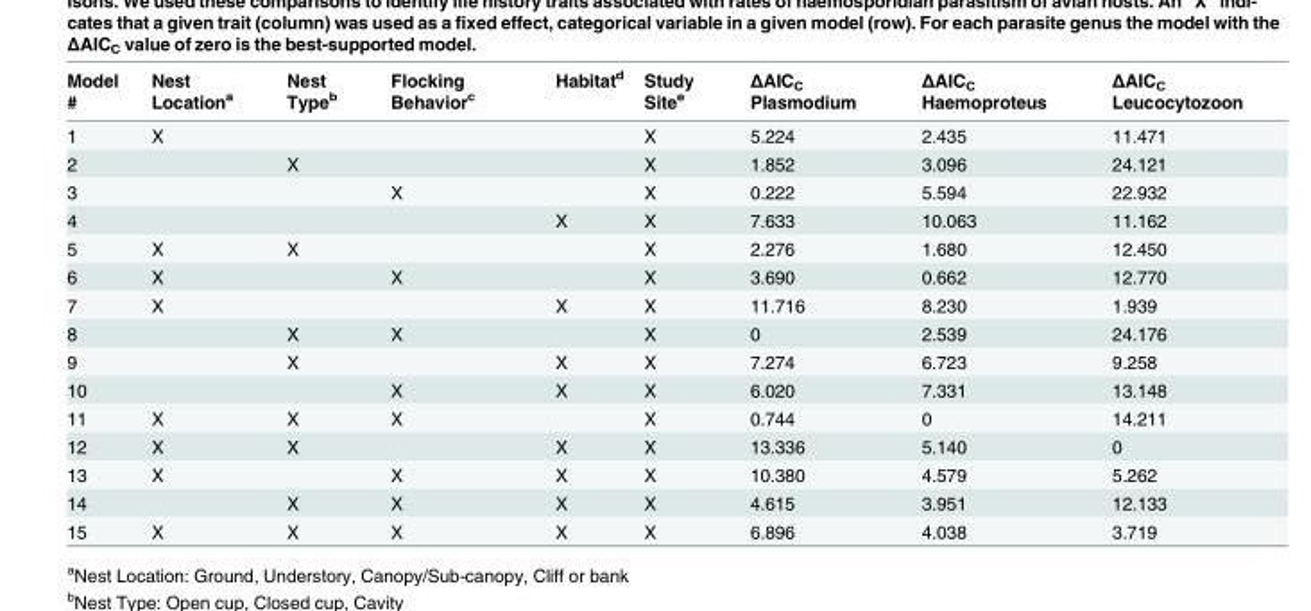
<table><thead><tr><td>Model #</td><td>Nest Location<sup>a</sup></td><td>Nest Type<sup>b</sup></td><td>Flocking Behavior<sup>c</sup></td><td>Habitat<sup>d</sup></td><td>Study Site<sup>e</sup></td><td>ΔAIC<sub>C</sub> Plasmodium</td><td>ΔAIC<sub>C</sub> Haemoproteus</td><td>ΔAIC<sub>C</sub> Leucocytozoon</td></tr></thead><tbody><tr><td>1</td><td>X</td><td></td><td></td><td></td><td>X</td><td>5.224</td><td>2.435</td><td>11.471</td></tr><tr><td>2</td><td></td><td>X</td><td></td><td></td><td>X</td><td>1.852</td><td>3.096</td><td>24.121</td></tr><tr><td>3</td><td></td><td></td><td>X</td><td></td><td>X</td><td>0.222</td><td>5.594</td><td>22.932</td></tr><tr><td>4</td><td></td><td></td><td></td><td>X</td><td>X</td><td>7.633</td><td>10.063</td><td>11.162</td></tr><tr><td>5</td><td>X</td><td>X</td><td></td><td></td><td>X</td><td>2.276</td><td>1.680</td><td>12.450</td></tr><tr><td>6</td><td>X</td><td></td><td>X</td><td></td><td>X</td><td>3.690</td><td>0.662</td><td>12.770</td></tr><tr><td>7</td><td>X</td><td></td><td></td><td>X</td><td>X</td><td>11.716</td><td>8.230</td><td>1.939</td></tr><tr><td>8</td><td></td><td>X</td><td>X</td><td></td><td>X</td><td>0</td><td>2.539</td><td>24.176</td></tr><tr><td>9</td><td></td><td>X</td><td></td><td>X</td><td>X</td><td>7.274</td><td>6.723</td><td>9.258</td></tr><tr><td>10</td><td></td><td></td><td>X</td><td>X</td><td>X</td><td>6.020</td><td>7.331</td><td>13.148</td></tr><tr><td>11</td><td>X</td><td>X</td><td>X</td><td></td><td>X</td><td>0.744</td><td>0</td><td>14.211</td></tr><tr><td>12</td><td>X</td><td>X</td><td></td><td>X</td><td>X</td><td>13.336</td><td>5.140</td><td>0</td></tr><tr><td>13</td><td>X</td><td></td><td>X</td><td>X</td><td>X</td><td>10.380</td><td>4.579</td><td>5.262</td></tr><tr><td>14</td><td></td><td>X</td><td>X</td><td>X</td><td>X</td><td>4.615</td><td>3.951</td><td>12.133</td></tr><tr><td>15</td><td>X</td><td>X</td><td>X</td><td>X</td><td>X</td><td>6.896</td><td>4.038</td><td>3.719</td></tr></tbody></table>